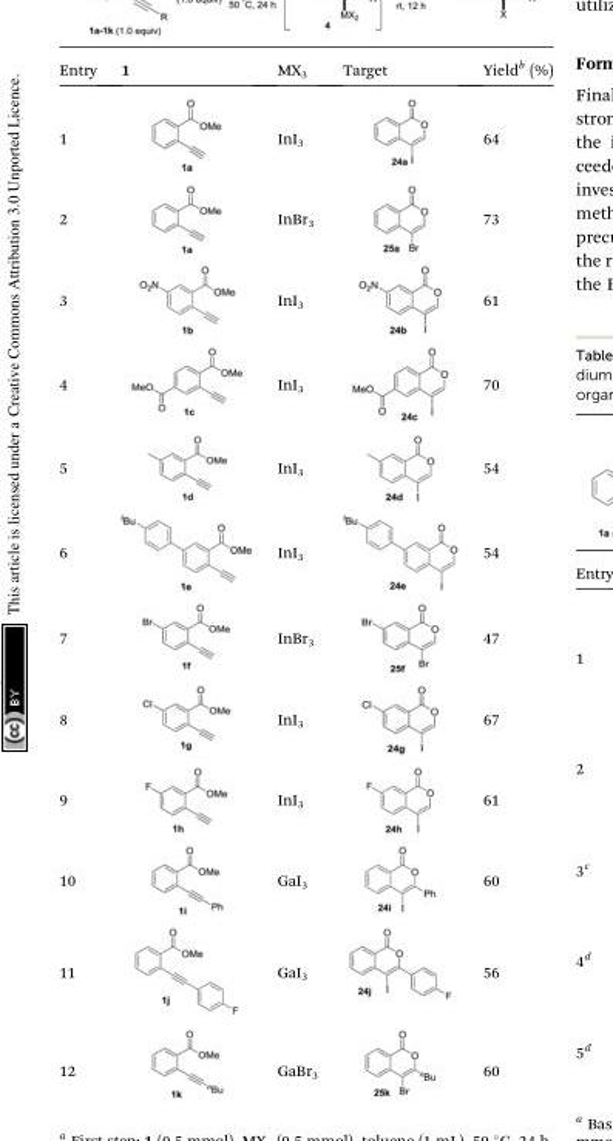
<table><thead><tr><td>Entry</td><td>1</td><td>MX<sub>3</sub></td><td>Target</td><td>Yield<sup>b</sup> (%)</td></tr></thead><tbody><tr><td>1</td><td></td><td>InI<sub>3</sub></td><td></td><td>64</td></tr><tr><td>2</td><td></td><td>InBr<sub>3</sub></td><td></td><td>73</td></tr><tr><td>3</td><td></td><td>InI<sub>3</sub></td><td></td><td>61</td></tr><tr><td>4</td><td></td><td>InI<sub>3</sub></td><td></td><td>70</td></tr><tr><td>5</td><td></td><td>InI<sub>3</sub></td><td></td><td>54</td></tr><tr><td>6</td><td></td><td>InI<sub>3</sub></td><td></td><td>54</td></tr><tr><td>7</td><td></td><td>InBr<sub>3</sub></td><td></td><td>47</td></tr><tr><td>8</td><td></td><td>InI<sub>3</sub></td><td></td><td>67</td></tr><tr><td>9</td><td></td><td>InI<sub>3</sub></td><td></td><td>61</td></tr><tr><td>10</td><td></td><td>GaI<sub>3</sub></td><td></td><td>60</td></tr><tr><td>11</td><td></td><td>GaI<sub>3</sub></td><td></td><td>56</td></tr><tr><td>12</td><td></td><td>GaBr<sub>3</sub></td><td></td><td>60</td></tr></tbody></table>